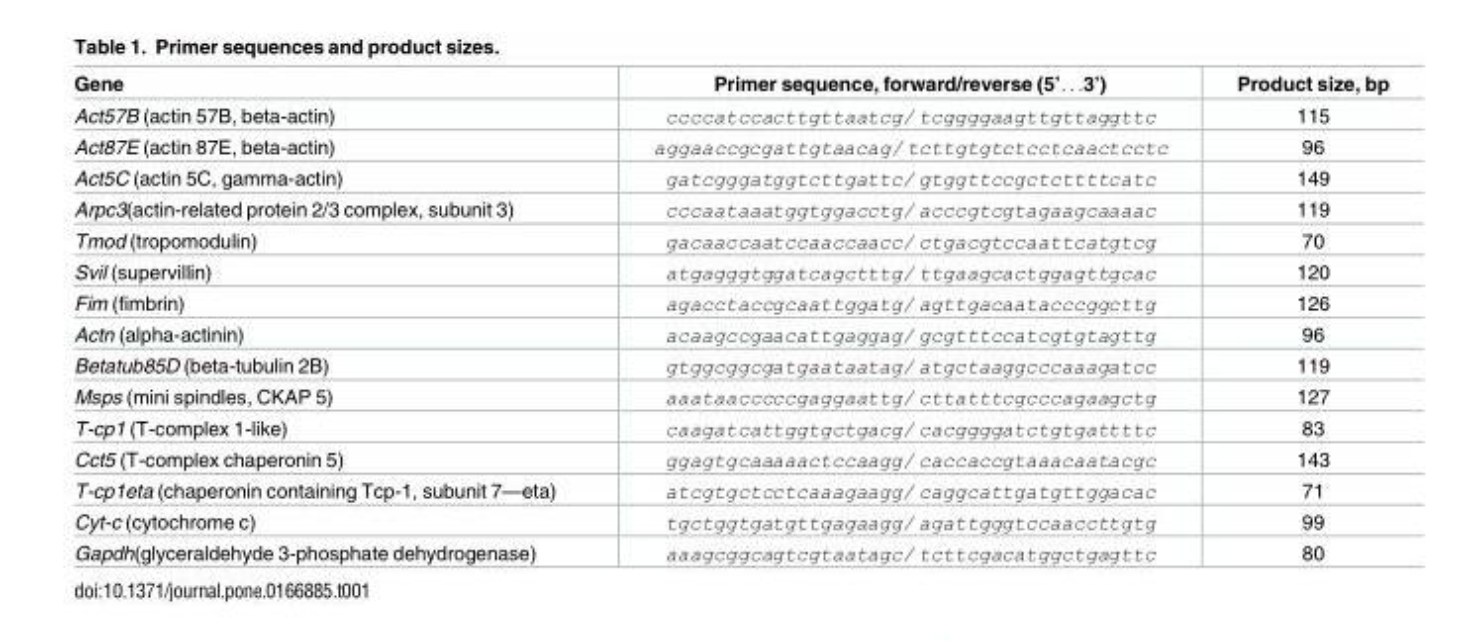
<table><thead><tr><td>Gene</td><td>Primer sequence, forward/reverse (5’. . .3’)</td><td>Product size, bp</td></tr></thead><tbody><tr><td>Act57B (actin 57B, beta-actin)</td><td>ccccatccacttgttaatcg/ tcggggaagttgttaggttc</td><td>115</td></tr><tr><td>Act87E (actin 87E, beta-actin)</td><td>aggaaccgcgattgtaacag/ tcttgtgtctcctcaactcctc</td><td>96</td></tr><tr><td>Act5C (actin 5C, gamma-actin)</td><td>gatcgggatggtcttgattc/ gtggttccgctcttttcatc</td><td>149</td></tr><tr><td>Arpc3(actin-related protein 2/3 complex, subunit 3)</td><td>cccaataaatggtggacctg/ acccgtcgtagaagcaaaac</td><td>119</td></tr><tr><td>Tmod (tropomodulin)</td><td>gacaaccaatccaaccaacc/ ctgacgtccaattcatgtcg</td><td>70</td></tr><tr><td>Svil (supervillin)</td><td>atgagggtggatcagctttg/ ttgaagcactggagttgcac</td><td>120</td></tr><tr><td>Fim (fimbrin)</td><td>agacctaccgcaattggatg/ agttgacaatacccggcttg</td><td>126</td></tr><tr><td>Actn (alpha-actinin)</td><td>acaagccgaacattgaggag/ gcgtttccatcgtgtagttg</td><td>96</td></tr><tr><td>Betatub85D (beta-tubulin 2B)</td><td>gtggcggcgatgaataatag/ atgctaaggcccaaagatcc</td><td>119</td></tr><tr><td>Msps (mini spindles, CKAP 5)</td><td>aaataacccccgaggaattg/ cttatttcgcccagaagctg</td><td>127</td></tr><tr><td>T-cp1 (T-complex 1-like)</td><td>caagatcattggtgctgacg/ cacggggatctgtgattttc</td><td>83</td></tr><tr><td>Cct5 (T-complex chaperonin 5)</td><td>ggagtgcaaaaactccaagg/ caccaccgtaaacaatacgc</td><td>143</td></tr><tr><td>T-cp1eta (chaperonin containing Tcp-1, subunit 7—eta)</td><td>atcgtgctcctcaaagaagg/ caggcattgatgttggacac</td><td>71</td></tr><tr><td>Cyt-c (cytochrome c)</td><td>tgctggtgatgttgagaagg/ agattgggtccaaccttgtg</td><td>99</td></tr><tr><td>Gapdh(glyceraldehyde 3-phosphate dehydrogenase)</td><td>aaagcggcagtcgtaatagc/ tcttcgacatggctgagttc</td><td>80</td></tr></tbody></table>